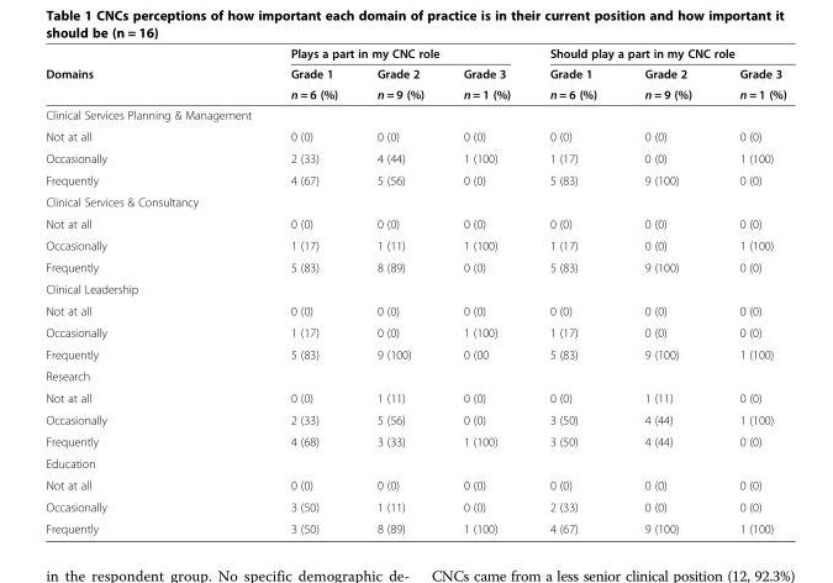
<table><thead><tr><td rowspan="3">Domains</td><td colspan="3">Plays a part in my CNC role</td><td colspan="3">Should play a part in my CNC role</td></tr><tr><td rowspan="2">Grade 1 n = 6 (%)</td><td rowspan="2">Grade 2 n = 9 (%)</td><td rowspan="2">Grade 3 n = 1 (%)</td><td rowspan="2">Grade 1 n = 6 (%)</td><td rowspan="2">Grade 2 n = 9 (%)</td><td rowspan="2">Grade 3 n = 1 (%)</td></tr><tr></tr></thead><tbody><tr><td colspan="7">Clinical Services Planning &amp; Management</td></tr><tr><td>Not at all</td><td>0 (0)</td><td>0 (0)</td><td>0 (0)</td><td>0 (0)</td><td>0 (0)</td><td>0 (0)</td></tr><tr><td>Occasionally</td><td>2 (33)</td><td>4 (44)</td><td>1 (100)</td><td>1 (17)</td><td>0 (0)</td><td>1 (100)</td></tr><tr><td>Frequently</td><td>4 (67)</td><td>5 (56)</td><td>0 (0)</td><td>5 (83)</td><td>9 (100)</td><td>0 (0)</td></tr><tr><td colspan="7">Clinical Services &amp; Consultancy</td></tr><tr><td>Not at all</td><td>0 (0)</td><td>0 (0)</td><td>0 (0)</td><td>0 (0)</td><td>0 (0)</td><td>0 (0)</td></tr><tr><td>Occasionally</td><td>1 (17)</td><td>1 (11)</td><td>1 (100)</td><td>1 (17)</td><td>0 (0)</td><td>1 (100)</td></tr><tr><td>Frequently</td><td>5 (83)</td><td>8 (89)</td><td>0 (0)</td><td>5 (83)</td><td>9 (100)</td><td>0 (0)</td></tr><tr><td colspan="7">Clinical Leadership</td></tr><tr><td>Not at all</td><td>0 (0)</td><td>0 (0)</td><td>0 (0)</td><td>0 (0)</td><td>0 (0)</td><td>0 (0)</td></tr><tr><td>Occasionally</td><td>1 (17)</td><td>0 (0)</td><td>1 (100)</td><td>1 (17)</td><td>0 (0)</td><td>0 (0)</td></tr><tr><td>Frequently</td><td>5 (83)</td><td>9 (100)</td><td>0 (00</td><td>5 (83)</td><td>9 (100)</td><td>1 (100)</td></tr><tr><td colspan="7">Research</td></tr><tr><td>Not at all</td><td>0 (0)</td><td>1 (11)</td><td>0 (0)</td><td>0 (0)</td><td>1 (11)</td><td>0 (0)</td></tr><tr><td>Occasionally</td><td>2 (33)</td><td>5 (56)</td><td>0 (0)</td><td>3 (50)</td><td>4 (44)</td><td>1 (100)</td></tr><tr><td>Frequently</td><td>4 (68)</td><td>3 (33)</td><td>1 (100)</td><td>3 (50)</td><td>4 (44)</td><td>0 (0)</td></tr><tr><td colspan="7">Education</td></tr><tr><td>Not at all</td><td>0 (0)</td><td>0 (0)</td><td>0 (0)</td><td>0 (0)</td><td>0 (0)</td><td>0 (0)</td></tr><tr><td>Occasionally</td><td>3 (50)</td><td>1 (11)</td><td>0 (0)</td><td>2 (33)</td><td>0 (0)</td><td>0 (0)</td></tr><tr><td>Frequently</td><td>3 (50)</td><td>8 (89)</td><td>1 (100)</td><td>4 (67)</td><td>9 (100)</td><td>1 (100)</td></tr></tbody></table>